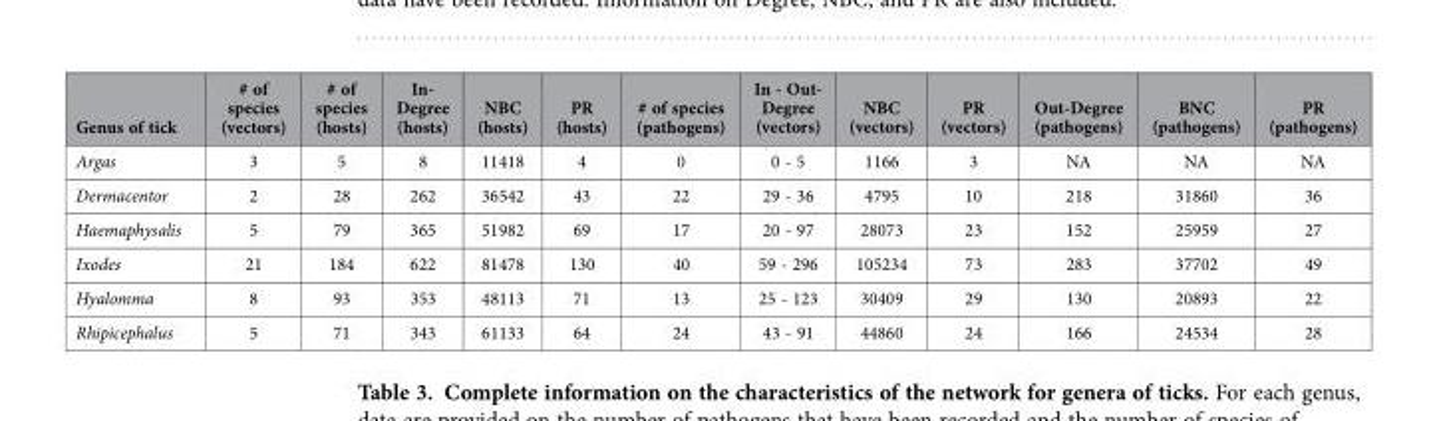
<table><thead><tr><td>Genus of tick</td><td># of species (vectors)</td><td># of species (hosts)</td><td>In- Degree (hosts)</td><td>NBC (hosts)</td><td>PR (hosts)</td><td># of species (pathogens)</td><td>In - Out- Degree (vectors)</td><td>NBC (vectors)</td><td>PR (vectors)</td><td>Out-Degree (pathogens)</td><td>BNC (pathogens)</td><td>PR (pathogens)</td></tr></thead><tbody><tr><td>Argas</td><td>3</td><td>5</td><td>8</td><td>11418</td><td>4</td><td>0</td><td>0 - 5</td><td>1166</td><td>3</td><td>NA</td><td>NA</td><td>NA</td></tr><tr><td>Dermacentor</td><td>2</td><td>28</td><td>262</td><td>36542</td><td>43</td><td>22</td><td>29 - 36</td><td>4795</td><td>10</td><td>218</td><td>31860</td><td>36</td></tr><tr><td>Haemaphysalis</td><td>5</td><td>79</td><td>365</td><td>51982</td><td>69</td><td>17</td><td>20 - 97</td><td>28073</td><td>23</td><td>152</td><td>25959</td><td>27</td></tr><tr><td>Ixodes</td><td>21</td><td>184</td><td>622</td><td>81478</td><td>130</td><td>40</td><td>59 - 296</td><td>105234</td><td>73</td><td>283</td><td>37702</td><td>49</td></tr><tr><td>Hyalomma</td><td>8</td><td>93</td><td>353</td><td>48113</td><td>71</td><td>13</td><td>25 - 123</td><td>30409</td><td>29</td><td>130</td><td>20893</td><td>22</td></tr><tr><td>Rhipicephalus</td><td>5</td><td>71</td><td>343</td><td>61133</td><td>64</td><td>24</td><td>43 - 91</td><td>44860</td><td>24</td><td>166</td><td>24534</td><td>28</td></tr></tbody></table>